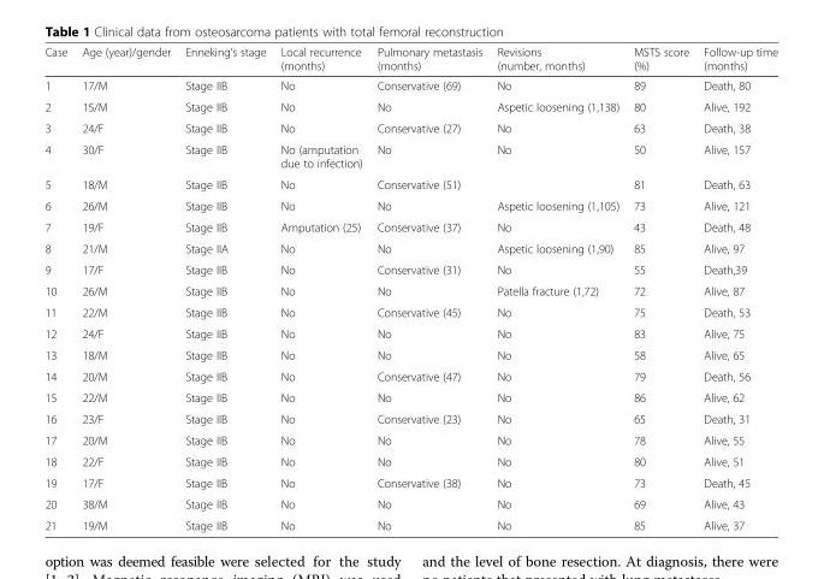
<table><thead><tr><td>Case</td><td>Age (year)/gender</td><td>Enneking’s stage</td><td>Local recurrence (months)</td><td>Pulmonary metastasis (months)</td><td>Revisions (number, months)</td><td>MSTS score (%)</td><td>Follow-up time (months)</td></tr></thead><tbody><tr><td>1</td><td>17/M</td><td>Stage IIB</td><td>No</td><td>Conservative (69)</td><td>No</td><td>89</td><td>Death, 80</td></tr><tr><td>2</td><td>15/M</td><td>Stage IIB</td><td>No</td><td>No</td><td>Aspetic loosening (1,138)</td><td>80</td><td>Alive, 192</td></tr><tr><td>3</td><td>24/F</td><td>Stage IIB</td><td>No</td><td>Conservative (27)</td><td>No</td><td>63</td><td>Death, 38</td></tr><tr><td>4</td><td>30/F</td><td>Stage IIB</td><td>No (amputation due to infection)</td><td>No</td><td>No</td><td>50</td><td>Alive, 157</td></tr><tr><td>5</td><td>18/M</td><td>Stage IIB</td><td>No</td><td>Conservative (51)</td><td></td><td>81</td><td>Death, 63</td></tr><tr><td>6</td><td>26/M</td><td>Stage IIB</td><td>No</td><td>No</td><td>Aspetic loosening (1,105)</td><td>73</td><td>Alive, 121</td></tr><tr><td>7</td><td>19/F</td><td>Stage IIB</td><td>Amputation (25)</td><td>Conservative (37)</td><td>No</td><td>43</td><td>Death, 48</td></tr><tr><td>8</td><td>21/M</td><td>Stage IIA</td><td>No</td><td>No</td><td>Aspetic loosening (1,90)</td><td>85</td><td>Alive, 97</td></tr><tr><td>9</td><td>17/F</td><td>Stage IIB</td><td>No</td><td>Conservative (31)</td><td>No</td><td>55</td><td>Death,39</td></tr><tr><td>10</td><td>26/M</td><td>Stage IIB</td><td>No</td><td>No</td><td>Patella fracture (1,72)</td><td>72</td><td>Alive, 87</td></tr><tr><td>11</td><td>22/M</td><td>Stage IIB</td><td>No</td><td>Conservative (45)</td><td>No</td><td>75</td><td>Death, 53</td></tr><tr><td>12</td><td>24/F</td><td>Stage IIB</td><td>No</td><td>No</td><td>No</td><td>83</td><td>Alive, 75</td></tr><tr><td>13</td><td>18/M</td><td>Stage IIB</td><td>No</td><td>No</td><td>No</td><td>58</td><td>Alive, 65</td></tr><tr><td>14</td><td>20/M</td><td>Stage IIB</td><td>No</td><td>Conservative (47)</td><td>No</td><td>79</td><td>Death, 56</td></tr><tr><td>15</td><td>22/M</td><td>Stage IIB</td><td>No</td><td>No</td><td>No</td><td>86</td><td>Alive, 62</td></tr><tr><td>16</td><td>23/F</td><td>Stage IIB</td><td>No</td><td>Conservative (23)</td><td>No</td><td>65</td><td>Death, 31</td></tr><tr><td>17</td><td>20/M</td><td>Stage IIB</td><td>No</td><td>No</td><td>No</td><td>78</td><td>Alive, 55</td></tr><tr><td>18</td><td>22/F</td><td>Stage IIB</td><td>No</td><td>No</td><td>No</td><td>80</td><td>Alive, 51</td></tr><tr><td>19</td><td>17/F</td><td>Stage IIB</td><td>No</td><td>Conservative (38)</td><td>No</td><td>73</td><td>Death, 45</td></tr><tr><td>20</td><td>38/M</td><td>Stage IIB</td><td>No</td><td>No</td><td>No</td><td>69</td><td>Alive, 43</td></tr><tr><td>21</td><td>19/M</td><td>Stage IIB</td><td>No</td><td>No</td><td>No</td><td>85</td><td>Alive, 37</td></tr></tbody></table>